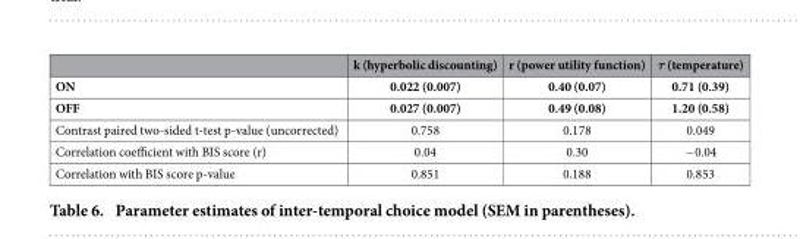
<table><thead><tr><td></td><td>k (hyperbolic discounting)</td><td>r (power utility function)</td><td>τ (temperature)</td></tr></thead><tbody><tr><td>ON</td><td>0.022 (0.007)</td><td>0.40 (0.07)</td><td>0.71 (0.39)</td></tr><tr><td>OFF</td><td>0.027 (0.007)</td><td>0.49 (0.08)</td><td>1.20 (0.58)</td></tr><tr><td>Contrast paired two-sided t-test p-value (uncorrected)</td><td>0.758</td><td>0.178</td><td>0.049</td></tr><tr><td>Correlation coefficient with BIS score (r)</td><td>0.04</td><td>0.30</td><td>− 0.04</td></tr><tr><td>Correlation with BIS score p-value</td><td>0.851</td><td>0.188</td><td>0.853</td></tr></tbody></table>